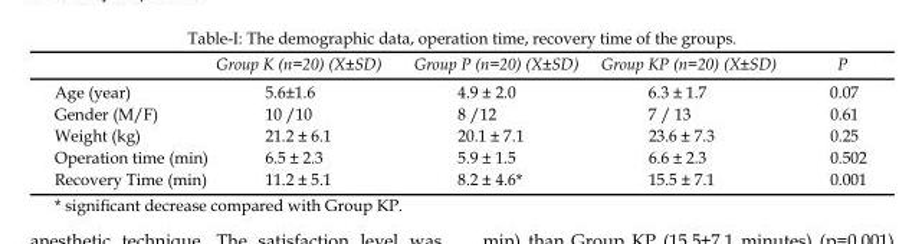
<table><thead><tr><td></td><td>Group K (n=20) (X±SD)</td><td>Group P (n=20) (X±SD)</td><td>Group KP (n=20) (X±SD)</td><td>P</td></tr></thead><tbody><tr><td>Age (year)</td><td>5.6±1.6</td><td>4.9 ± 2.0</td><td>6.3 ± 1.7</td><td>0.07</td></tr><tr><td>Gender (M/F)</td><td>10 /10</td><td>8 /12</td><td>7 / 13</td><td>0.61</td></tr><tr><td>Weight (kg)</td><td>21.2 ± 6.1</td><td>20.1 ± 7.1</td><td>23.6 ± 7.3</td><td>0.25</td></tr><tr><td>Operation time (min)</td><td>6.5 ± 2.3</td><td>5.9 ± 1.5</td><td>6.6 ± 2.3</td><td>0.502</td></tr><tr><td>Recovery Time (min)</td><td>11.2 ± 5.1</td><td>8.2 ± 4.6*</td><td>15.5 ± 7.1</td><td>0.001</td></tr></tbody></table>